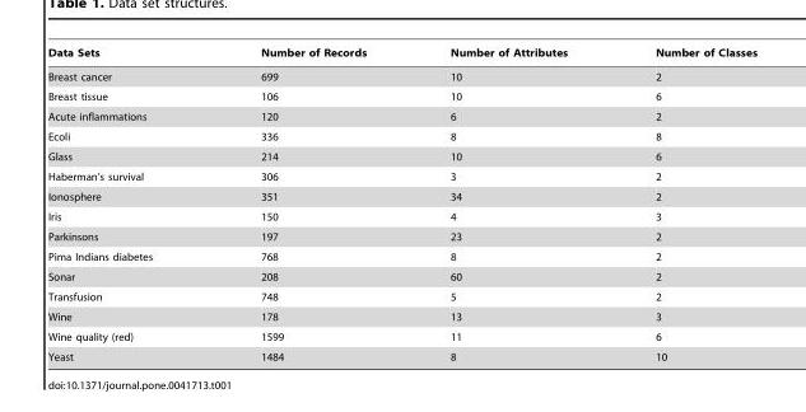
<table><thead><tr><td>Data Sets</td><td>Number of Records</td><td>Number of Attributes</td><td>Number of Classes</td></tr></thead><tbody><tr><td>Breast cancer</td><td>699</td><td>10</td><td>2</td></tr><tr><td>Breast tissue</td><td>106</td><td>10</td><td>6</td></tr><tr><td>Acute inflammations</td><td>120</td><td>6</td><td>2</td></tr><tr><td>Ecoli</td><td>336</td><td>8</td><td>8</td></tr><tr><td>Glass</td><td>214</td><td>10</td><td>6</td></tr><tr><td>Haberman’s survival</td><td>306</td><td>3</td><td>2</td></tr><tr><td>Ionosphere</td><td>351</td><td>34</td><td>2</td></tr><tr><td>Iris</td><td>150</td><td>4</td><td>3</td></tr><tr><td>Parkinsons</td><td>197</td><td>23</td><td>2</td></tr><tr><td>Pima Indians diabetes</td><td>768</td><td>8</td><td>2</td></tr><tr><td>Sonar</td><td>208</td><td>60</td><td>2</td></tr><tr><td>Transfusion</td><td>748</td><td>5</td><td>2</td></tr><tr><td>Wine</td><td>178</td><td>13</td><td>3</td></tr><tr><td>Wine quality (red)</td><td>1599</td><td>11</td><td>6</td></tr><tr><td>Yeast</td><td>1484</td><td>8</td><td>10</td></tr></tbody></table>